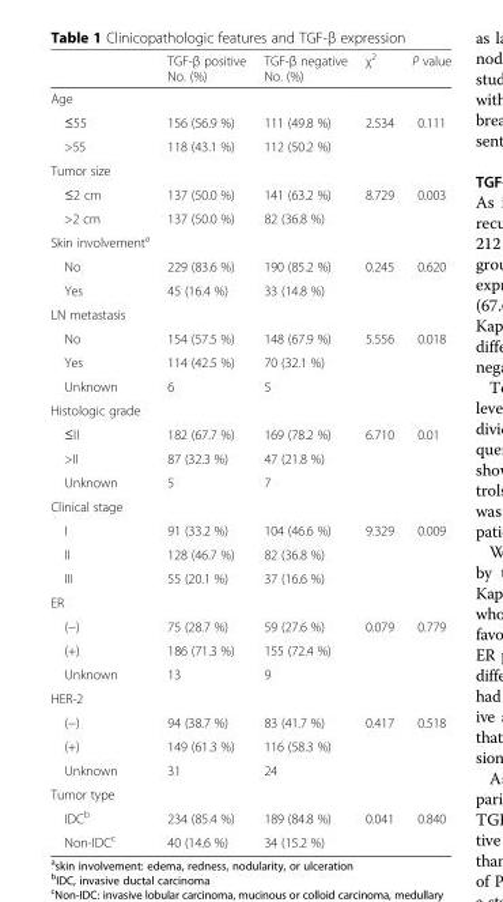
<table><thead><tr><td></td><td>TGF-β positive No. (%)</td><td>TGF-β negative No. (%)</td><td>χ<sup>2</sup></td><td>P value</td></tr></thead><tbody><tr><td colspan="5">Age</td></tr><tr><td>≤55</td><td>156 (56.9 %)</td><td>111 (49.8 %)</td><td>2.534</td><td>0.111</td></tr><tr><td>&gt;55</td><td>118 (43.1 %)</td><td>112 (50.2 %)</td><td></td><td></td></tr><tr><td colspan="5">Tumor size</td></tr><tr><td>≤2 cm</td><td>137 (50.0 %)</td><td>141 (63.2 %)</td><td>8.729</td><td>0.003</td></tr><tr><td>&gt;2 cm</td><td>137 (50.0 %)</td><td>82 (36.8 %)</td><td></td><td></td></tr><tr><td colspan="5">Skin involvement<sup>a</sup></td></tr><tr><td>No</td><td>229 (83.6 %)</td><td>190 (85.2 %)</td><td>0.245</td><td>0.620</td></tr><tr><td>Yes</td><td>45 (16.4 %)</td><td>33 (14.8 %)</td><td></td><td></td></tr><tr><td colspan="5">LN metastasis</td></tr><tr><td>No</td><td>154 (57.5 %)</td><td>148 (67.9 %)</td><td>5.556</td><td>0.018</td></tr><tr><td>Yes</td><td>114 (42.5 %)</td><td>70 (32.1 %)</td><td></td><td></td></tr><tr><td>Unknown</td><td>6</td><td>5</td><td></td><td></td></tr><tr><td colspan="5">Histologic grade</td></tr><tr><td>≤II</td><td>182 (67.7 %)</td><td>169 (78.2 %)</td><td>6.710</td><td>0.01</td></tr><tr><td>&gt;II</td><td>87 (32.3 %)</td><td>47 (21.8 %)</td><td></td><td></td></tr><tr><td>Unknown</td><td>5</td><td>7</td><td></td><td></td></tr><tr><td colspan="5">Clinical stage</td></tr><tr><td>I</td><td>91 (33.2 %)</td><td>104 (46.6 %)</td><td>9.329</td><td>0.009</td></tr><tr><td>II</td><td>128 (46.7 %)</td><td>82 (36.8 %)</td><td></td><td></td></tr><tr><td>III</td><td>55 (20.1 %)</td><td>37 (16.6 %)</td><td></td><td></td></tr><tr><td colspan="5">ER</td></tr><tr><td>(−)</td><td>75 (28.7 %)</td><td>59 (27.6 %)</td><td>0.079</td><td>0.779</td></tr><tr><td>(+)</td><td>186 (71.3 %)</td><td>155 (72.4 %)</td><td></td><td></td></tr><tr><td>Unknown</td><td>13</td><td>9</td><td></td><td></td></tr><tr><td colspan="5">HER-2</td></tr><tr><td>(−)</td><td>94 (38.7 %)</td><td>83 (41.7 %)</td><td>0.417</td><td>0.518</td></tr><tr><td>(+)</td><td>149 (61.3 %)</td><td>116 (58.3 %)</td><td></td><td></td></tr><tr><td>Unknown</td><td>31</td><td>24</td><td></td><td></td></tr><tr><td colspan="5">Tumor type</td></tr><tr><td>IDC<sup>b</sup></td><td>234 (85.4 %)</td><td>189 (84.8 %)</td><td>0.041</td><td>0.840</td></tr><tr><td>Non-IDC<sup>c</sup></td><td>40 (14.6 %)</td><td>34 (15.2 %)</td><td></td><td></td></tr></tbody></table>